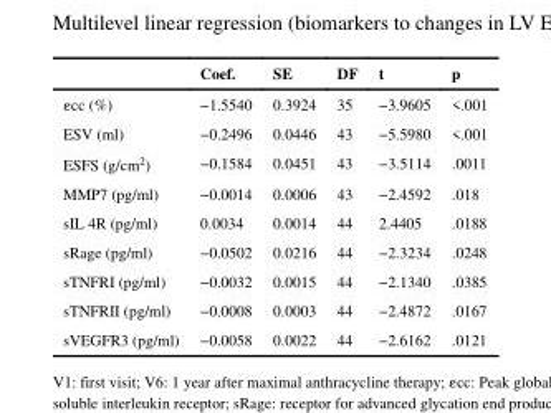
<table><thead><tr><td></td><td>Coef.</td><td>SE</td><td>DF</td><td>t</td><td>p</td></tr></thead><tbody><tr><td>εcc (%)</td><td>−1.5540</td><td>0.3924</td><td>35</td><td>−3.9605</td><td>&lt;.001</td></tr><tr><td>ESV (ml)</td><td>−0.2496</td><td>0.0446</td><td>43</td><td>−5.5980</td><td>&lt;.001</td></tr><tr><td>ESFS (g/cm<sup>2</sup>)</td><td>−0.1584</td><td>0.0451</td><td>43</td><td>−3.5114</td><td>.0011</td></tr><tr><td>MMP7 (pg/ml)</td><td>−0.0014</td><td>0.0006</td><td>43</td><td>−2.4592</td><td>.018</td></tr><tr><td>sIL 4R (pg/ml)</td><td>0.0034</td><td>0.0014</td><td>44</td><td>2.4405</td><td>.0188</td></tr><tr><td>sRage (pg/ml)</td><td>−0.0502</td><td>0.0216</td><td>44</td><td>−2.3234</td><td>.0248</td></tr><tr><td>sTNFRI (pg/ml)</td><td>−0.0032</td><td>0.0015</td><td>44</td><td>−2.1340</td><td>.0385</td></tr><tr><td>sTNFRII (pg/ml)</td><td>−0.0008</td><td>0.0003</td><td>44</td><td>−2.4872</td><td>.0167</td></tr><tr><td>sVEGFR3 (pg/ml)</td><td>−0.0058</td><td>0.0022</td><td>44</td><td>−2.6162</td><td>.0121</td></tr></tbody></table>